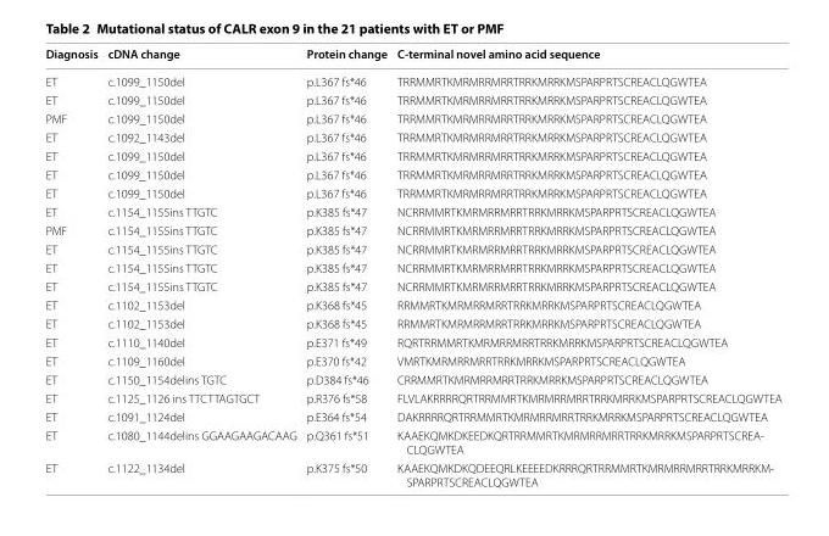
<table><thead><tr><td>Diagnosis</td><td>cDNA change</td><td>Protein change</td><td>C-terminal novel amino acid sequence</td></tr></thead><tbody><tr><td>ET</td><td>c.1099_1150del</td><td>p.L367 fs*46</td><td>TRRMMRTKMRMRRMRRTRRKMRRKMSPARPRTSCREACLQGWTEA</td></tr><tr><td>ET</td><td>c.1099_1150del</td><td>p.L367 fs*46</td><td>TRRMMRTKMRMRRMRRTRRKMRRKMSPARPRTSCREACLQGWTEA</td></tr><tr><td>PMF</td><td>c.1099_1150del</td><td>p.L367 fs*46</td><td>TRRMMRTKMRMRRMRRTRRKMRRKMSPARPRTSCREACLQGWTEA</td></tr><tr><td>ET</td><td>c.1092_1143del</td><td>p.L367 fs*46</td><td>TRRMMRTKMRMRRMRRTRRKMRRKMSPARPRTSCREACLQGWTEA</td></tr><tr><td>ET</td><td>c.1099_1150del</td><td>p.L367 fs*46</td><td>TRRMMRTKMRMRRMRRTRRKMRRKMSPARPRTSCREACLQGWTEA</td></tr><tr><td>ET</td><td>c.1099_1150del</td><td>p.L367 fs*46</td><td>TRRMMRTKMRMRRMRRTRRKMRRKMSPARPRTSCREACLQGWTEA</td></tr><tr><td>ET</td><td>c.1099_1150del</td><td>p.L367 fs*46</td><td>TRRMMRTKMRMRRMRRTRRKMRRKMSPARPRTSCREACLQGWTEA</td></tr><tr><td>ET</td><td>c.1154_1155ins TTGTC</td><td>p.K385 fs*47</td><td>NCRRMMRTKMRMRRMRRTRRKMRRKMSPARPRTSCREACLQGWTEA</td></tr><tr><td>PMF</td><td>c.1154_1155ins TTGTC</td><td>p.K385 fs*47</td><td>NCRRMMRTKMRMRRMRRTRRKMRRKMSPARPRTSCREACLQGWTEA</td></tr><tr><td>ET</td><td>c.1154_1155ins TTGTC</td><td>p.K385 fs*47</td><td>NCRRMMRTKMRMRRMRRTRRKMRRKMSPARPRTSCREACLQGWTEA</td></tr><tr><td>ET</td><td>c.1154_1155ins TTGTC</td><td>p.K385 fs*47</td><td>NCRRMMRTKMRMRRMRRTRRKMRRKMSPARPRTSCREACLQGWTEA</td></tr><tr><td>ET</td><td>c.1154_1155ins TTGTC</td><td>p.K385 fs*47</td><td>NCRRMMRTKMRMRRMRRTRRKMRRKMSPARPRTSCREACLQGWTEA</td></tr><tr><td>ET</td><td>c.1102_1153del</td><td>p.K368 fs*45</td><td>RRMMRTKMRMRRMRRTRRKMRRKMSPARPRTSCREACLQGWTEA</td></tr><tr><td>ET</td><td>c.1102_1153del</td><td>p.K368 fs*45</td><td>RRMMRTKMRMRRMRRTRRKMRRKMSPARPRTSCREACLQGWTEA</td></tr><tr><td>ET</td><td>c.1110_1140del</td><td>p.E371 fs*49</td><td>RQRTRRMMRTKMRMRRMRRTRRKMRRKMSPARPRTSCREACLQGWTEA</td></tr><tr><td>ET</td><td>c.1109_1160del</td><td>p.E370 fs*42</td><td>VMRTKMRMRRMRRTRRKMRRKMSPARPRTSCREACLQGWTEA</td></tr><tr><td>ET</td><td>c.1150_1154delins TGTC</td><td>p.D384 fs*46</td><td>CRRMMRTKMRMRRMRRTRRKMRRKMSPARPRTSCREACLQGWTEA</td></tr><tr><td>ET</td><td>c.1125_1126 ins TTCTTAGTGCT</td><td>p.R376 fs*58</td><td>FLVLAKRRRRQRTRRMMRTKMRMRRMRRTRRKMRRKMSPARPRTSCREACLQGWTEA</td></tr><tr><td>ET</td><td>c.1091_1124del</td><td>p.E364 fs*54</td><td>DAKRRRRQRTRRMMRTKMRMRRMRRTRRKMRRKMSPARPRTSCREACLQGWTEA</td></tr><tr><td>ET</td><td>c.1080_1144delins GGAAGAAGACAAG</td><td>p.Q361 fs*51</td><td>KAAEKQMKDKEEDKQRTRRMMRTKMRMRRMRRTRRKMRRKMSPARPRTSCREA‑ CLQGWTEA</td></tr><tr><td>ET</td><td>c.1122_1134del</td><td>p.K375 fs*50</td><td>KAAEKQMKDKQDEEQRLKEEEEDKRRRQRTRRMMRTKMRMRRMRRTRRKMRRKM‑ SPARPRTSCREACLQGWTEA</td></tr></tbody></table>